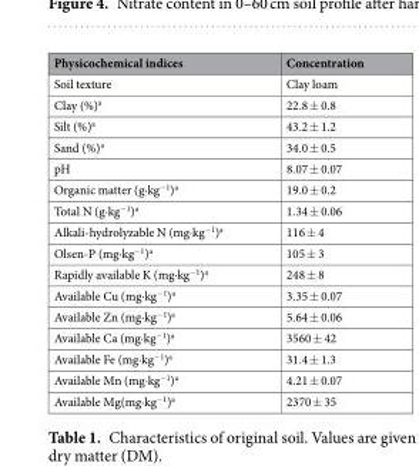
<table><thead><tr><td>Physicochemical indices</td><td>Concentration</td></tr></thead><tbody><tr><td>Soil texture</td><td>Clay loam</td></tr><tr><td>Clay (%)<sup>a</sup></td><td>22.8 ± 0.8</td></tr><tr><td>Silt (%)<sup>a</sup></td><td>43.2 ± 1.2</td></tr><tr><td>Sand (%)<sup>a</sup></td><td>34.0 ± 0.5</td></tr><tr><td>pH</td><td>8.07 ± 0.07</td></tr><tr><td>Organic matter (g·kg<sup>−1</sup>)<sup>a</sup></td><td>19.0 ± 0.2</td></tr><tr><td>Total N (g·kg<sup>−1</sup>)<sup>a</sup></td><td>1.34 ± 0.06</td></tr><tr><td>Alkali-hydrolyzable N (mg·kg<sup>−1</sup>)<sup>a</sup></td><td>116 ± 4</td></tr><tr><td>Olsen-P (mg·kg<sup>−1</sup>)<sup>a</sup></td><td>105 ± 3</td></tr><tr><td>Rapidly available K (mg·kg<sup>−1</sup>)<sup>a</sup></td><td>248 ± 8</td></tr><tr><td>Available Cu (mg·kg<sup>−1</sup>)<sup>a</sup></td><td>3.35 ± 0.07</td></tr><tr><td>Available Zn (mg·kg<sup>−1</sup>)<sup>a</sup></td><td>5.64 ± 0.06</td></tr><tr><td>Available Ca (mg·kg<sup>−1</sup>)<sup>a</sup></td><td>3560 ± 42</td></tr><tr><td>Available Fe (mg·kg<sup>−1</sup>)<sup>a</sup></td><td>31.4 ± 1.3</td></tr><tr><td>Available Mn (mg·kg<sup>−1</sup>)<sup>a</sup></td><td>4.21 ± 0.07</td></tr><tr><td>Available Mg(mg·kg<sup>−1</sup>)<sup>a</sup></td><td>2370 ± 35</td></tr></tbody></table>